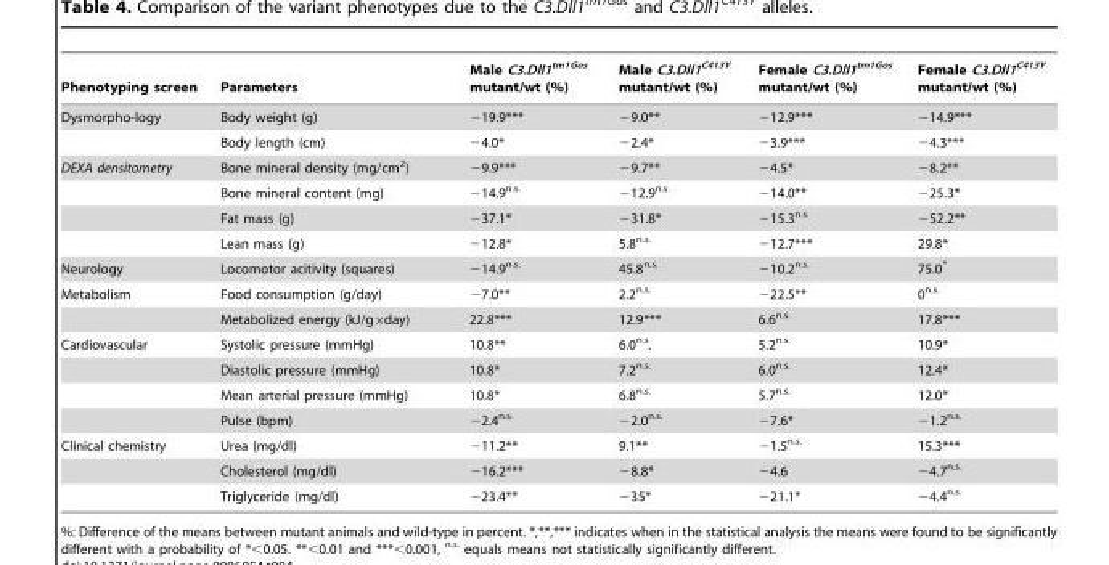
<table><thead><tr><td>Phenotyping screen</td><td>Parameters</td><td>Male C3.Dll1<sup>tm1Gos</sup> mutant/wt (%)</td><td>Male C3.Dll1<sup>C413Y</sup> mutant/wt (%)</td><td>Female C3.Dll1<sup>tm1Gos</sup> mutant/wt (%)</td><td>Female C3.Dll1<sup>C413Y</sup> mutant/wt (%)</td></tr></thead><tbody><tr><td rowspan="2">Dysmorpho-logy</td><td>Body weight (g)</td><td>−19.9***</td><td>−9.0**</td><td>−12.9***</td><td>−14.9***</td></tr><tr><td>Body length (cm)</td><td>−4.0*</td><td>−2.4*</td><td>−3.9***</td><td>−4.3***</td></tr><tr><td rowspan="4">DEXA densitometry</td><td>Bone mineral density (mg/cm<sup>2</sup>)</td><td>−9.9***</td><td>−9.7**</td><td>−4.5*</td><td>−8.2**</td></tr><tr><td>Bone mineral content (mg)</td><td>−14.9<sup>n.s.</sup></td><td>−12.9<sup>n.s.</sup></td><td>−14.0**</td><td>−25.3*</td></tr><tr><td>Fat mass (g)</td><td>−37.1*</td><td>−31.8*</td><td>−15.3<sup>n.s.</sup></td><td>−52.2**</td></tr><tr><td>Lean mass (g)</td><td>−12.8*</td><td>5.8<sup>n.s.</sup></td><td>−12.7***</td><td>29.8*</td></tr><tr><td>Neurology</td><td>Locomotor acitivity (squares)</td><td>−14.9<sup>n.s.</sup></td><td>45.8<sup>n.s.</sup></td><td>−10.2<sup>n.s.</sup></td><td>75.0*</td></tr><tr><td rowspan="2">Metabolism</td><td>Food consumption (g/day)</td><td>−7.0**</td><td>2.2<sup>n.s.</sup></td><td>−22.5**</td><td>0<sup>n.s.</sup></td></tr><tr><td>Metabolized energy (kJ/g×day)</td><td>22.8***</td><td>12.9***</td><td>6.6<sup>n.s.</sup></td><td>17.8***</td></tr><tr><td rowspan="4">Cardiovascular</td><td>Systolic pressure (mmHg)</td><td>10.8**</td><td>6.0<sup>n.s</sup>.</td><td>5.2<sup>n.s.</sup></td><td>10.9*</td></tr><tr><td>Diastolic pressure (mmHg)</td><td>10.8*</td><td>7.2<sup>n.s.</sup></td><td>6.0<sup>n.s.</sup></td><td>12.4*</td></tr><tr><td>Mean arterial pressure (mmHg)</td><td>10.8*</td><td>6.8<sup>n.s.</sup></td><td>5.7<sup>n.s.</sup></td><td>12.0*</td></tr><tr><td>Pulse (bpm)</td><td>−2.4<sup>n.s.</sup></td><td>−2.0<sup>n.s.</sup></td><td>−7.6*</td><td>−1.2<sup>n.s.</sup></td></tr><tr><td rowspan="3">Clinical chemistry</td><td>Urea (mg/dl)</td><td>−11.2**</td><td>9.1**</td><td>−1.5<sup>n.s.</sup></td><td>15.3***</td></tr><tr><td>Cholesterol (mg/dl)</td><td>−16.2***</td><td>−8.8*</td><td>−4.6</td><td>−4.7<sup>n.s.</sup></td></tr><tr><td>Triglyceride (mg/dl)</td><td>−23.4**</td><td>−35*</td><td>−21.1*</td><td>−4.4<sup>n.s.</sup></td></tr></tbody></table>